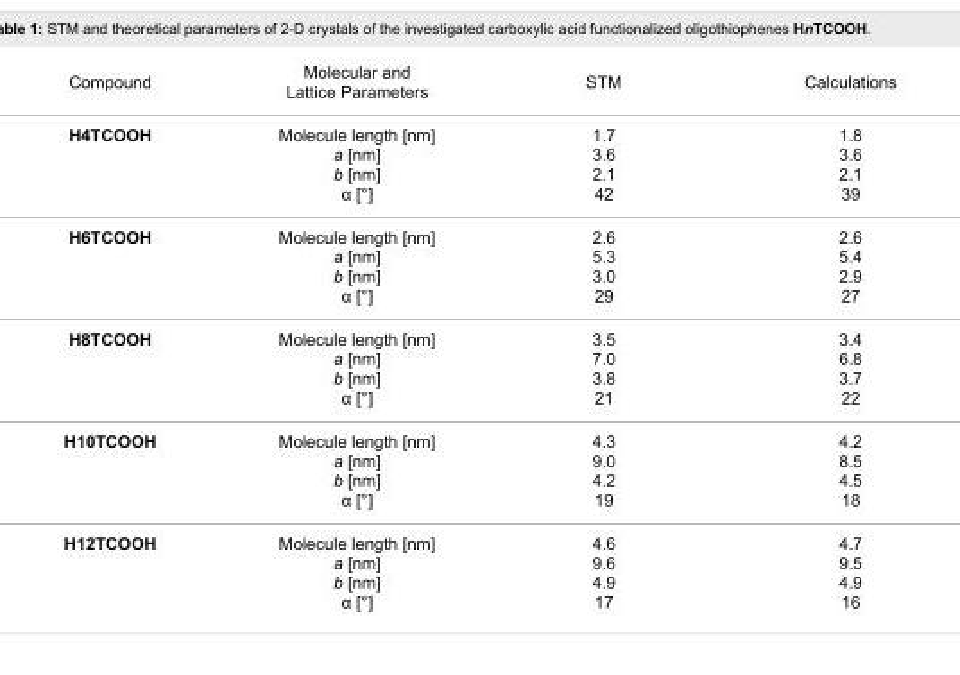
<table><tbody><tr><td>Compound</td><td>Molecular and Lattice Parameters</td><td>STM</td><td>Calculations</td></tr><tr><td>H4TCOOH</td><td>Molecule length [nm] a [nm] b [nm] α [°]</td><td>1.7 3.6 2.1 42</td><td>1.8 3.6 2.1 39</td></tr><tr><td>H6TCOOH</td><td>Molecule length [nm] a [nm] b [nm] α [°]</td><td>2.6 5.3 3.0 29</td><td>2.6 5.4 2.9 27</td></tr><tr><td>H8TCOOH</td><td>Molecule length [nm] a [nm] b [nm] α [°]</td><td>3.5 7.0 3.8 21</td><td>3.4 6.8 3.7 22</td></tr><tr><td>H10TCOOH</td><td>Molecule length [nm] a [nm] b [nm] α [°]</td><td>4.3 9.0 4.2 19</td><td>4.2 8.5 4.5 18</td></tr><tr><td>H12TCOOH</td><td>Molecule length [nm] a [nm] b [nm] α [°]</td><td>4.6 9.6 4.9 17</td><td>4.7 9.5 4.9 16</td></tr></tbody></table>